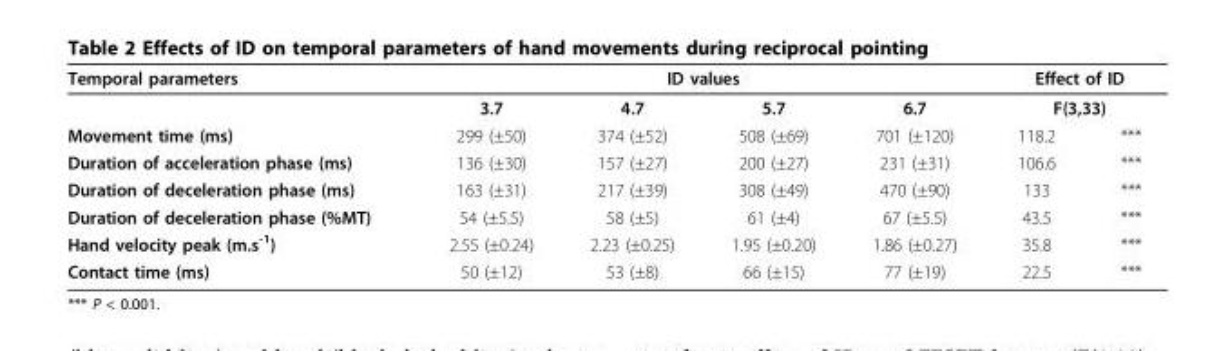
<table><thead><tr><td rowspan="3">Temporal parameters Movement time (ms)</td><td colspan="4">ID values</td><td rowspan="2" colspan="2">Effect of ID F(3,33)</td></tr><tr><td rowspan="2">3.7 299 (±50)</td><td rowspan="2">4.7 374 (±52)</td><td rowspan="2">5.7 508 (±69)</td><td rowspan="2">6.7 701 (±120)</td></tr><tr><td>118.2</td><td>***</td></tr></thead><tbody><tr><td>Duration of acceleration phase (ms)</td><td>136 (±30)</td><td>157 (±27)</td><td>200 (±27)</td><td>231 (±31)</td><td>106.6</td><td>***</td></tr><tr><td>Duration of deceleration phase (ms)</td><td>163 (±31)</td><td>217 (±39)</td><td>308 (±49)</td><td>470 (±90)</td><td>133</td><td>***</td></tr><tr><td>Duration of deceleration phase (%MT)</td><td>54 (±5.5)</td><td>58 (±5)</td><td>61 (±4)</td><td>67 (±5.5)</td><td>43.5</td><td>***</td></tr><tr><td>Hand velocity peak (m.s<sup>-1</sup>)</td><td>2.55 (±0.24)</td><td>2.23 (±0.25)</td><td>1.95 (±0.20)</td><td>1.86 (±0.27)</td><td>35.8</td><td>***</td></tr><tr><td>Contact time (ms)</td><td>50 (±12)</td><td>53 (±8)</td><td>66 (±15)</td><td>77 (±19)</td><td>22.5</td><td>***</td></tr></tbody></table>